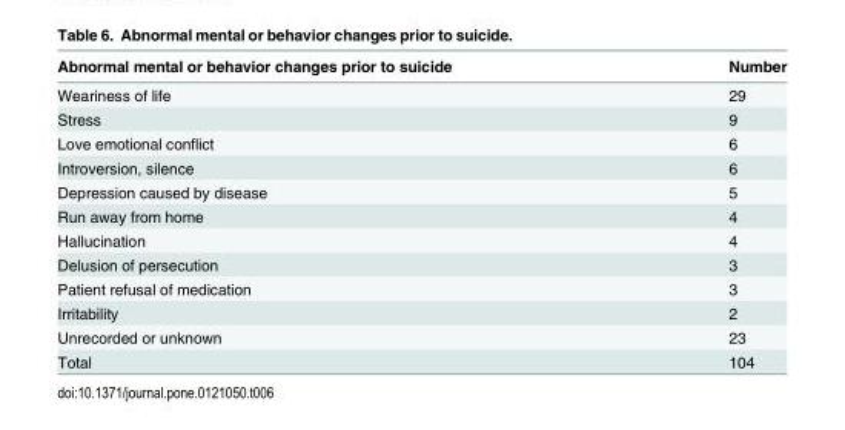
<table><thead><tr><td>Abnormal mental or behavior changes prior to suicide</td><td>Number</td></tr></thead><tbody><tr><td>Weariness of life</td><td>29</td></tr><tr><td>Stress</td><td>9</td></tr><tr><td>Love emotional conflict</td><td>6</td></tr><tr><td>Introversion, silence</td><td>6</td></tr><tr><td>Depression caused by disease</td><td>5</td></tr><tr><td>Run away from home</td><td>4</td></tr><tr><td>Hallucination</td><td>4</td></tr><tr><td>Delusion of persecution</td><td>3</td></tr><tr><td>Patient refusal of medication</td><td>3</td></tr><tr><td>Irritability</td><td>2</td></tr><tr><td>Unrecorded or unknown</td><td>23</td></tr><tr><td>Total</td><td>104</td></tr></tbody></table>